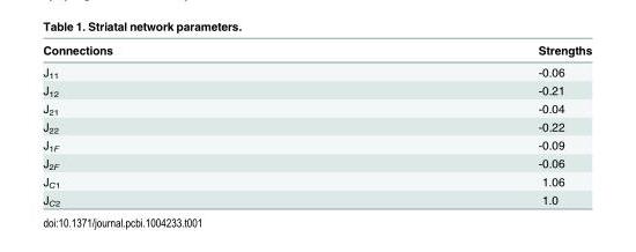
<table><thead><tr><td>Connections</td><td>Strengths</td></tr></thead><tbody><tr><td>J<sub>11</sub></td><td>-0.06</td></tr><tr><td>J<sub>12</sub></td><td>-0.21</td></tr><tr><td>J<sub>21</sub></td><td>-0.04</td></tr><tr><td>J<sub>22</sub></td><td>-0.22</td></tr><tr><td>J<sub>1F</sub></td><td>-0.09</td></tr><tr><td>J<sub>2F</sub></td><td>-0.06</td></tr><tr><td>J<sub>C1</sub></td><td>1.06</td></tr><tr><td>J<sub>C2</sub></td><td>1.0</td></tr></tbody></table>